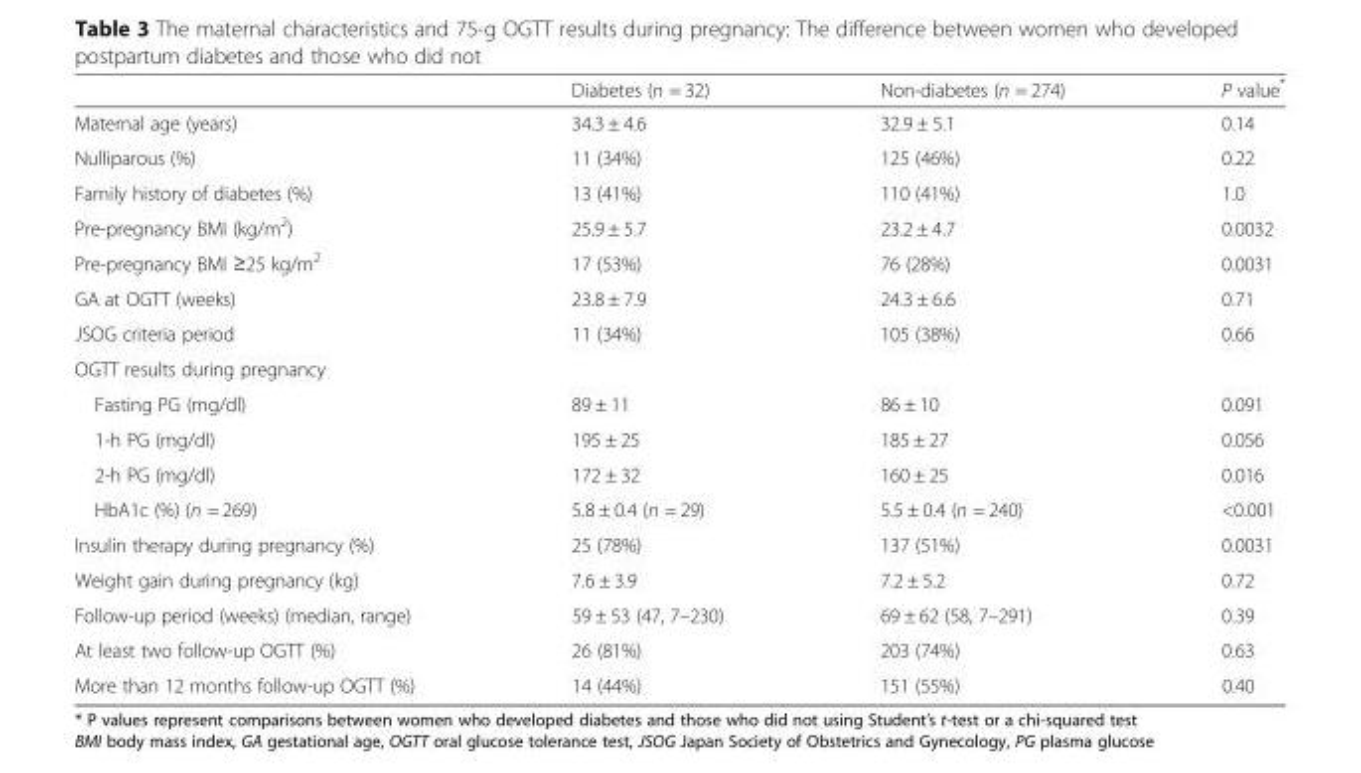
<table><thead><tr><td></td><td>Diabetes (n = 32)</td><td>Non-diabetes (n = 274)</td><td>P value*</td></tr></thead><tbody><tr><td>Maternal age (years)</td><td>34.3 ± 4.6</td><td>32.9 ± 5.1</td><td>0.14</td></tr><tr><td>Nulliparous (%)</td><td>11 (34%)</td><td>125 (46%)</td><td>0.22</td></tr><tr><td>Family history of diabetes (%)</td><td>13 (41%)</td><td>110 (41%)</td><td>1.0</td></tr><tr><td>Pre-pregnancy BMI (kg/m<sup>2</sup>)</td><td>25.9 ± 5.7</td><td>23.2 ± 4.7</td><td>0.0032</td></tr><tr><td>Pre-pregnancy BMI ≥25 kg/m<sup>2</sup></td><td>17 (53%)</td><td>76 (28%)</td><td>0.0031</td></tr><tr><td>GA at OGTT (weeks)</td><td>23.8 ± 7.9</td><td>24.3 ± 6.6</td><td>0.71</td></tr><tr><td>JSOG criteria period</td><td>11 (34%)</td><td>105 (38%)</td><td>0.66</td></tr><tr><td colspan="4">OGTT results during pregnancy</td></tr><tr><td>Fasting PG (mg/dl)</td><td>89 ± 11</td><td>86 ± 10</td><td>0.091</td></tr><tr><td>1-h PG (mg/dl)</td><td>195 ± 25</td><td>185 ± 27</td><td>0.056</td></tr><tr><td>2-h PG (mg/dl)</td><td>172 ± 32</td><td>160 ± 25</td><td>0.016</td></tr><tr><td>HbA1c (%) (n = 269)</td><td>5.8 ± 0.4 (n = 29)</td><td>5.5 ± 0.4 (n = 240)</td><td>&lt;0.001</td></tr><tr><td>Insulin therapy during pregnancy (%)</td><td>25 (78%)</td><td>137 (51%)</td><td>0.0031</td></tr><tr><td>Weight gain during pregnancy (kg)</td><td>7.6 ± 3.9</td><td>7.2 ± 5.2</td><td>0.72</td></tr><tr><td>Follow-up period (weeks) (median, range)</td><td>59 ± 53 (47, 7–230)</td><td>69 ± 62 (58, 7–291)</td><td>0.39</td></tr><tr><td>At least two follow-up OGTT (%)</td><td>26 (81%)</td><td>203 (74%)</td><td>0.63</td></tr><tr><td>More than 12 months follow-up OGTT (%)</td><td>14 (44%)</td><td>151 (55%)</td><td>0.40</td></tr></tbody></table>